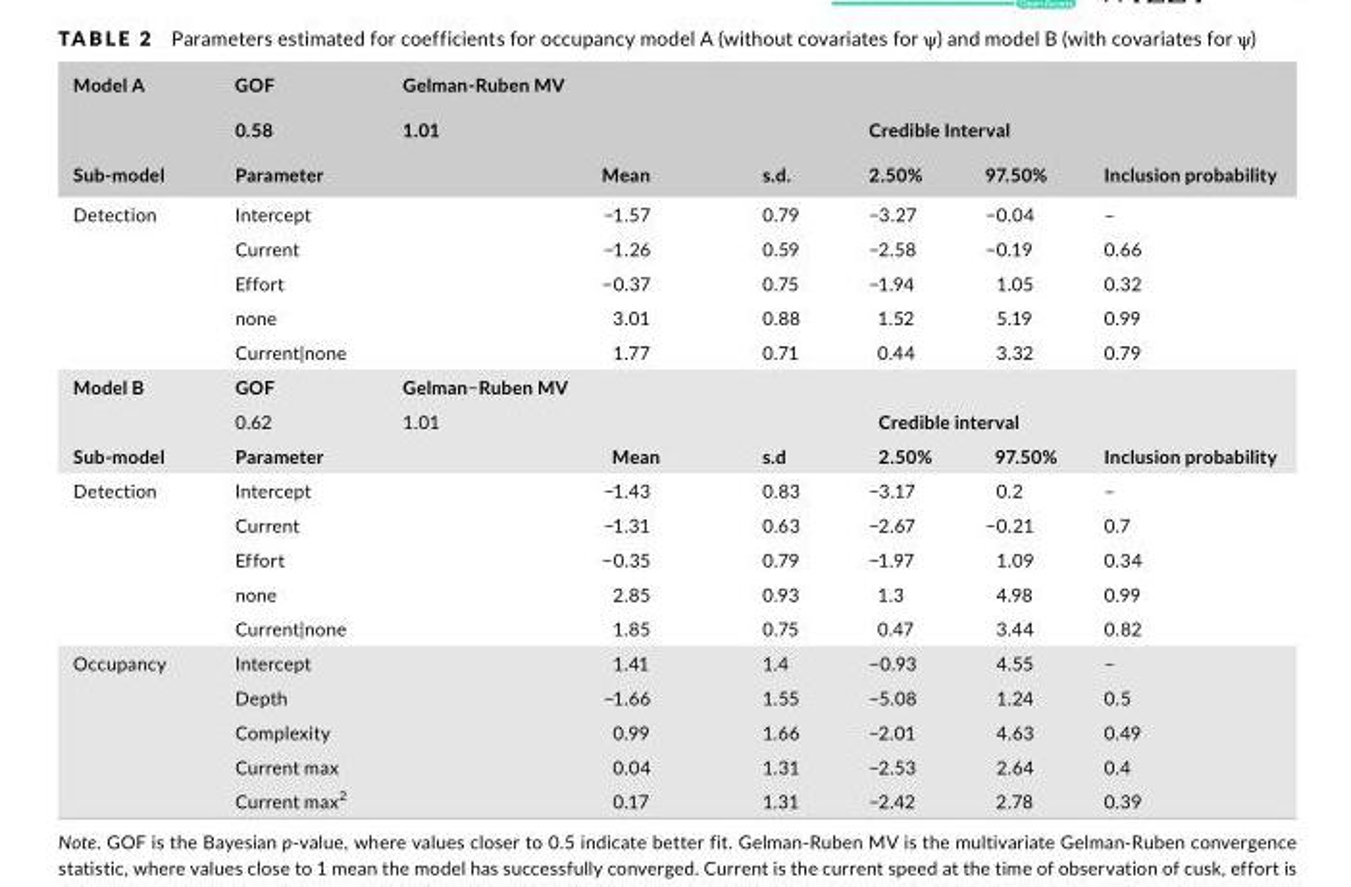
<table><thead><tr><td>Model A</td><td>GOF</td><td>Gelman- Ruben MV</td><td></td><td></td><td></td><td></td><td></td></tr></thead><tbody><tr><td></td><td>0.58</td><td>1.01</td><td></td><td></td><td colspan="2">Credible Interval</td><td></td></tr><tr><td>Sub- model</td><td>Parameter</td><td></td><td>Mean</td><td>s.d.</td><td>2.50%</td><td>97.50%</td><td>Inclusion probability</td></tr><tr><td rowspan="5">Detection</td><td>Intercept</td><td></td><td>−1.57</td><td>0.79</td><td>−3.27</td><td>−0.04</td><td>–</td></tr><tr><td>Current</td><td></td><td>−1.26</td><td>0.59</td><td>−2.58</td><td>−0.19</td><td>0.66</td></tr><tr><td>Effort</td><td></td><td>−0.37</td><td>0.75</td><td>−1.94</td><td>1.05</td><td>0.32</td></tr><tr><td>none</td><td></td><td>3.01</td><td>0.88</td><td>1.52</td><td>5.19</td><td>0.99</td></tr><tr><td colspan="2">Current|none</td><td>1.77</td><td>0.71</td><td>0.44</td><td>3.32</td><td>0.79</td></tr><tr><td rowspan="2">Model B</td><td>GOF</td><td>Gelman−Ruben MV</td><td colspan="5"></td></tr><tr><td>0.62</td><td>1.01</td><td></td><td></td><td colspan="2">Credible interval</td><td></td></tr><tr><td>Sub-model</td><td>Parameter</td><td></td><td>Mean</td><td>s.d</td><td>2.50%</td><td>97.50%</td><td>Inclusion probability</td></tr><tr><td rowspan="5">Detection</td><td>Intercept</td><td></td><td>−1.43</td><td>0.83</td><td>−3.17</td><td>0.2</td><td>–</td></tr><tr><td>Current</td><td></td><td>−1.31</td><td>0.63</td><td>−2.67</td><td>−0.21</td><td>0.7</td></tr><tr><td>Effort</td><td></td><td>−0.35</td><td>0.79</td><td>−1.97</td><td>1.09</td><td>0.34</td></tr><tr><td>none</td><td></td><td>2.85</td><td>0.93</td><td>1.3</td><td>4.98</td><td>0.99</td></tr><tr><td colspan="2">Current|none</td><td>1.85</td><td>0.75</td><td>0.47</td><td>3.44</td><td>0.82</td></tr><tr><td rowspan="5">Occupancy</td><td>Intercept</td><td></td><td>1.41</td><td>1.4</td><td>−0.93</td><td>4.55</td><td>–</td></tr><tr><td>Depth</td><td></td><td>−1.66</td><td>1.55</td><td>−5.08</td><td>1.24</td><td>0.5</td></tr><tr><td>Complexity</td><td></td><td>0.99</td><td>1.66</td><td>−2.01</td><td>4.63</td><td>0.49</td></tr><tr><td>Current max</td><td></td><td>0.04</td><td>1.31</td><td>−2.53</td><td>2.64</td><td>0.4</td></tr><tr><td>Current max<sup>2</sup></td><td></td><td>0.17</td><td>1.31</td><td>−2.42</td><td>2.78</td><td>0.39</td></tr></tbody></table>